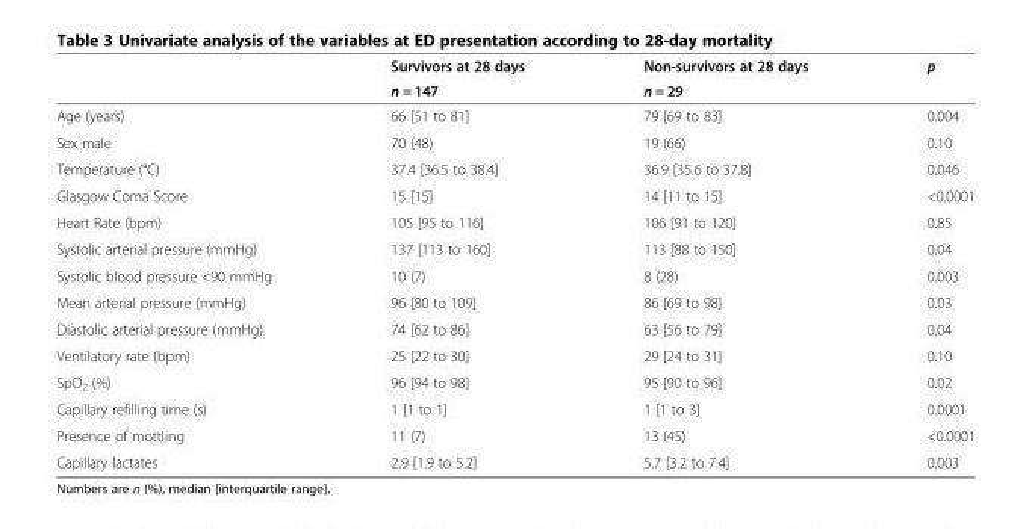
<table><thead><tr><td rowspan="2"></td><td rowspan="2">Survivors at 28 days n = 147</td><td rowspan="2">Non-survivors at 28 days n = 29</td><td rowspan="2">p</td></tr><tr></tr></thead><tbody><tr><td>Age (years)</td><td>66 [51 to 81]</td><td>79 [69 to 83]</td><td>0.004</td></tr><tr><td>Sex male</td><td>70 (48)</td><td>19 (66)</td><td>0.10</td></tr><tr><td>Temperature (°C)</td><td>37.4 [36.5 to 38.4]</td><td>36.9 [35.6 to 37.8]</td><td>0.046</td></tr><tr><td>Glasgow Coma Score</td><td>15 [15]</td><td>14 [11 to 15]</td><td>&lt;0.0001</td></tr><tr><td>Heart Rate (bpm)</td><td>105 [95 to 116]</td><td>106 [91 to 120]</td><td>0.85</td></tr><tr><td>Systolic arterial pressure (mmHg)</td><td>137 [113 to 160]</td><td>113 [88 to 150]</td><td>0.04</td></tr><tr><td>Systolic blood pressure &lt;90 mmHg</td><td>10 (7)</td><td>8 (28)</td><td>0.003</td></tr><tr><td>Mean arterial pressure (mmHg)</td><td>96 [80 to 109]</td><td>86 [69 to 98]</td><td>0.03</td></tr><tr><td>Diastolic arterial pressure (mmHg)</td><td>74 [62 to 86]</td><td>63 [56 to 79]</td><td>0.04</td></tr><tr><td>Ventilatory rate (bpm)</td><td>25 [22 to 30]</td><td>29 [24 to 31]</td><td>0.10</td></tr><tr><td>SpO<sub>2</sub> (%)</td><td>96 [94 to 98]</td><td>95 [90 to 96]</td><td>0.02</td></tr><tr><td>Capillary refilling time (s)</td><td>1 [1 to 1]</td><td>1 [1 to 3]</td><td>0.0001</td></tr><tr><td>Presence of mottling</td><td>11 (7)</td><td>13 (45)</td><td>&lt;0.0001</td></tr><tr><td>Capillary lactates</td><td>2.9 [1.9 to 5.2]</td><td>5.7 [3.2 to 7.4]</td><td>0.003</td></tr></tbody></table>